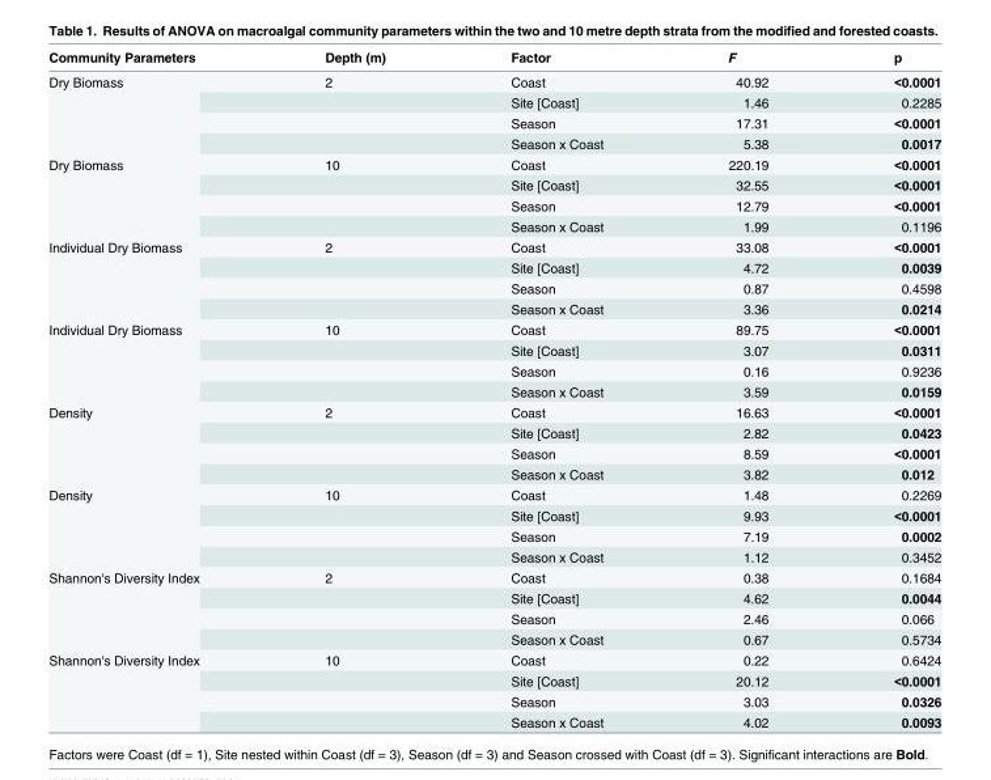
<table><thead><tr><td>Community Parameters</td><td>Depth (m)</td><td>Factor</td><td>F</td><td>p</td></tr></thead><tbody><tr><td rowspan="4">Dry Biomass</td><td>2</td><td>Coast</td><td>40.92</td><td>&lt;0.0001</td></tr><tr><td></td><td>Site [Coast]</td><td>1.46</td><td>0.2285</td></tr><tr><td></td><td>Season</td><td>17.31</td><td>&lt;0.0001</td></tr><tr><td></td><td>Season x Coast</td><td>5.38</td><td>0.0017</td></tr><tr><td rowspan="4">Dry Biomass</td><td>10</td><td>Coast</td><td>220.19</td><td>&lt;0.0001</td></tr><tr><td></td><td>Site [Coast]</td><td>32.55</td><td>&lt;0.0001</td></tr><tr><td></td><td>Season</td><td>12.79</td><td>&lt;0.0001</td></tr><tr><td></td><td>Season x Coast</td><td>1.99</td><td>0.1196</td></tr><tr><td rowspan="4">Individual Dry Biomass</td><td>2</td><td>Coast</td><td>33.08</td><td>&lt;0.0001</td></tr><tr><td></td><td>Site [Coast]</td><td>4.72</td><td>0.0039</td></tr><tr><td></td><td>Season</td><td>0.87</td><td>0.4598</td></tr><tr><td></td><td>Season x Coast</td><td>3.36</td><td>0.0214</td></tr><tr><td rowspan="4">Individual Dry Biomass</td><td>10</td><td>Coast</td><td>89.75</td><td>&lt;0.0001</td></tr><tr><td></td><td>Site [Coast]</td><td>3.07</td><td>0.0311</td></tr><tr><td></td><td>Season</td><td>0.16</td><td>0.9236</td></tr><tr><td></td><td>Season x Coast</td><td>3.59</td><td>0.0159</td></tr><tr><td rowspan="4">Density</td><td>2</td><td>Coast</td><td>16.63</td><td>&lt;0.0001</td></tr><tr><td></td><td>Site [Coast]</td><td>2.82</td><td>0.0423</td></tr><tr><td></td><td>Season</td><td>8.59</td><td>&lt;0.0001</td></tr><tr><td></td><td>Season x Coast</td><td>3.82</td><td>0.012</td></tr><tr><td rowspan="4">Density</td><td>10</td><td>Coast</td><td>1.48</td><td>0.2269</td></tr><tr><td></td><td>Site [Coast]</td><td>9.93</td><td>&lt;0.0001</td></tr><tr><td></td><td>Season</td><td>7.19</td><td>0.0002</td></tr><tr><td></td><td>Season x Coast</td><td>1.12</td><td>0.3452</td></tr><tr><td rowspan="4">Shannon&#x27;s Diversity Index</td><td>2</td><td>Coast</td><td>0.38</td><td>0.1684</td></tr><tr><td></td><td>Site [Coast]</td><td>4.62</td><td>0.0044</td></tr><tr><td></td><td>Season</td><td>2.46</td><td>0.066</td></tr><tr><td></td><td>Season x Coast</td><td>0.67</td><td>0.5734</td></tr><tr><td rowspan="4">Shannon&#x27;s Diversity Index</td><td>10</td><td>Coast</td><td>0.22</td><td>0.6424</td></tr><tr><td></td><td>Site [Coast]</td><td>20.12</td><td>&lt;0.0001</td></tr><tr><td></td><td>Season</td><td>3.03</td><td>0.0326</td></tr><tr><td></td><td>Season x Coast</td><td>4.02</td><td>0.0093</td></tr></tbody></table>